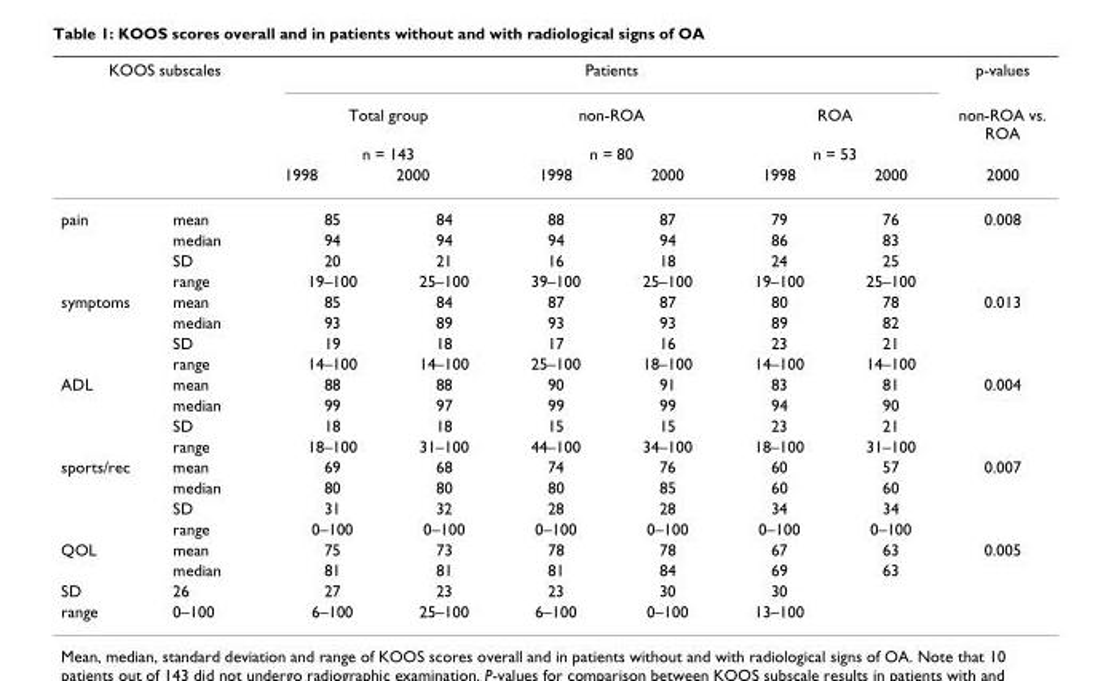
<table><thead><tr><td colspan="2">KOOS subscales</td><td colspan="6">Patients</td><td rowspan="4">p-values non-ROA vs. ROA 2000</td></tr><tr><td rowspan="3"></td><td rowspan="3"></td><td rowspan="2" colspan="2">Total group n = 143</td><td rowspan="2" colspan="2">non-ROA n = 80</td><td rowspan="2" colspan="2">ROA n = 53</td></tr><tr></tr><tr><td>1998</td><td>2000</td><td>1998</td><td>2000</td><td>1998</td><td>2000</td></tr></thead><tbody><tr><td rowspan="4">pain</td><td>mean</td><td>85</td><td>84</td><td>88</td><td>87</td><td>79</td><td>76</td><td>0.008</td></tr><tr><td>median</td><td>94</td><td>94</td><td>94</td><td>94</td><td>86</td><td>83</td><td></td></tr><tr><td>SD</td><td>20</td><td>21</td><td>16</td><td>18</td><td>24</td><td>25</td><td></td></tr><tr><td>range</td><td>19–100</td><td>25–100</td><td>39–100</td><td>25–100</td><td>19–100</td><td>25–100</td><td></td></tr><tr><td rowspan="4">symptoms</td><td>mean</td><td>85</td><td>84</td><td>87</td><td>87</td><td>80</td><td>78</td><td>0.013</td></tr><tr><td>median</td><td>93</td><td>89</td><td>93</td><td>93</td><td>89</td><td>82</td><td></td></tr><tr><td>SD</td><td>19</td><td>18</td><td>17</td><td>16</td><td>23</td><td>21</td><td></td></tr><tr><td>range</td><td>14–100</td><td>14–100</td><td>25–100</td><td>18–100</td><td>14–100</td><td>14–100</td><td></td></tr><tr><td rowspan="4">ADL</td><td>mean</td><td>88</td><td>88</td><td>90</td><td>91</td><td>83</td><td>81</td><td>0.004</td></tr><tr><td>median</td><td>99</td><td>97</td><td>99</td><td>99</td><td>94</td><td>90</td><td></td></tr><tr><td>SD</td><td>18</td><td>18</td><td>15</td><td>15</td><td>23</td><td>21</td><td></td></tr><tr><td>range</td><td>18–100</td><td>31–100</td><td>44–100</td><td>34–100</td><td>18–100</td><td>31–100</td><td></td></tr><tr><td rowspan="4">sports/rec</td><td>mean</td><td>69</td><td>68</td><td>74</td><td>76</td><td>60</td><td>57</td><td>0.007</td></tr><tr><td>median</td><td>80</td><td>80</td><td>80</td><td>85</td><td>60</td><td>60</td><td></td></tr><tr><td>SD</td><td>31</td><td>32</td><td>28</td><td>28</td><td>34</td><td>34</td><td></td></tr><tr><td>range</td><td>0–100</td><td>0–100</td><td>0–100</td><td>0–100</td><td>0–100</td><td>0–100</td><td></td></tr><tr><td rowspan="2">QOL</td><td>mean</td><td>75</td><td>73</td><td>78</td><td>78</td><td>67</td><td>63</td><td>0.005</td></tr><tr><td>median</td><td>81</td><td>81</td><td>81</td><td>84</td><td>69</td><td>63</td><td></td></tr><tr><td>SD</td><td>26</td><td>27</td><td>23</td><td>23</td><td>30</td><td>30</td><td></td><td></td></tr><tr><td>range</td><td>0–100</td><td>6–100</td><td>25–100</td><td>6–100</td><td>0–100</td><td>13–100</td><td></td><td></td></tr></tbody></table>